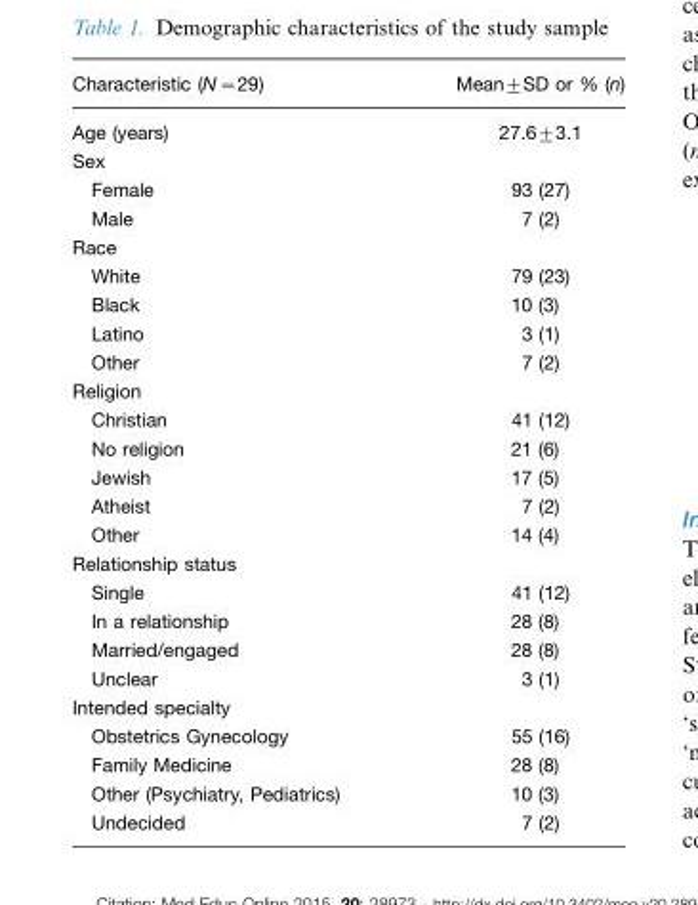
<table><thead><tr><td>Characteristic (N=29)</td><td>Mean±SD or % (n)</td></tr></thead><tbody><tr><td>Age (years)</td><td>27.6±3.1</td></tr><tr><td colspan="2">Sex</td></tr><tr><td>Female</td><td>93 (27)</td></tr><tr><td>Male</td><td>7 (2)</td></tr><tr><td colspan="2">Race</td></tr><tr><td>White</td><td>79 (23)</td></tr><tr><td>Black</td><td>10 (3)</td></tr><tr><td>Latino</td><td>3 (1)</td></tr><tr><td>Other</td><td>7 (2)</td></tr><tr><td colspan="2">Religion</td></tr><tr><td>Christian</td><td>41 (12)</td></tr><tr><td>No religion</td><td>21 (6)</td></tr><tr><td>Jewish</td><td>17 (5)</td></tr><tr><td>Atheist</td><td>7 (2)</td></tr><tr><td>Other</td><td>14 (4)</td></tr><tr><td colspan="2">Relationship status</td></tr><tr><td>Single</td><td>41 (12)</td></tr><tr><td>In a relationship</td><td>28 (8)</td></tr><tr><td>Married/engaged</td><td>28 (8)</td></tr><tr><td>Unclear</td><td>3 (1)</td></tr><tr><td colspan="2">Intended specialty</td></tr><tr><td>Obstetrics Gynecology</td><td>55 (16)</td></tr><tr><td>Family Medicine</td><td>28 (8)</td></tr><tr><td>Other (Psychiatry, Pediatrics)</td><td>10 (3)</td></tr><tr><td>Undecided</td><td>7 (2)</td></tr></tbody></table>